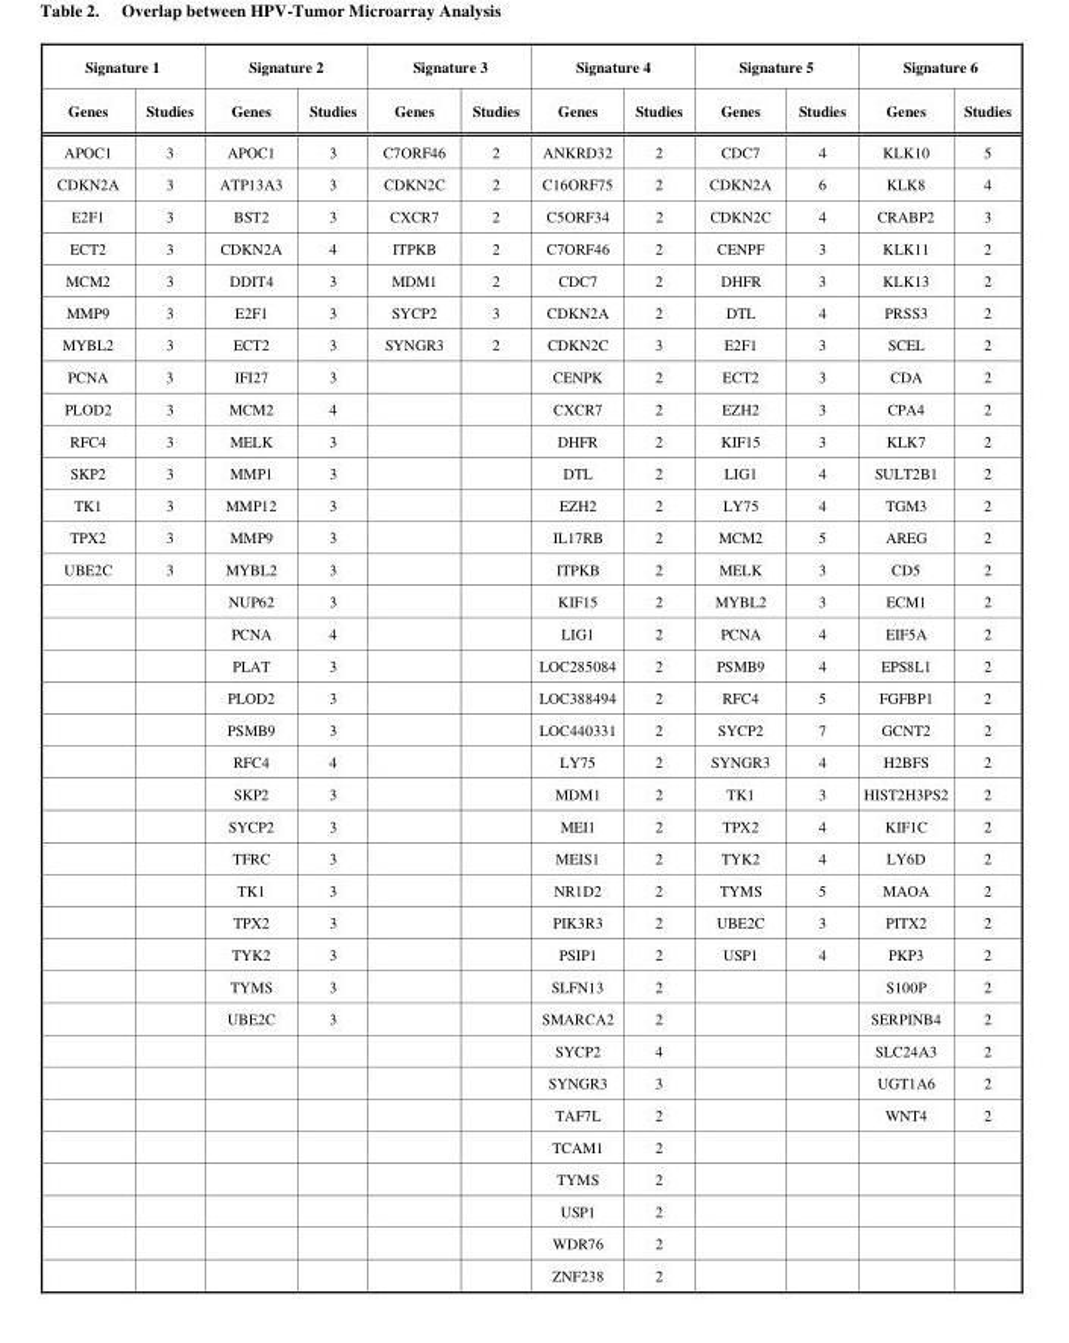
<table><thead><tr><td colspan="2">Signature 1</td><td colspan="2">Signature 2</td><td colspan="2">Signature 3</td><td colspan="2">Signature 4</td><td colspan="2">Signature 5</td><td colspan="2">Signature 6</td></tr><tr><td>Genes</td><td>Studies</td><td>Genes</td><td>Studies</td><td>Genes</td><td>Studies</td><td>Genes</td><td>Studies</td><td>Genes</td><td>Studies</td><td>Genes</td><td>Studies</td></tr></thead><tbody><tr><td>APOC1</td><td>3</td><td>APOC1</td><td>3</td><td>C7ORF46</td><td>2</td><td>ANKRD32</td><td>2</td><td>CDC7</td><td>4</td><td>KLK10</td><td>5</td></tr><tr><td>CDKN2A</td><td>3</td><td>ATP13A3</td><td>3</td><td>CDKN2C</td><td>2</td><td>C16ORF75</td><td>2</td><td>CDKN2A</td><td>6</td><td>KLK8</td><td>4</td></tr><tr><td>E2F1</td><td>3</td><td>BST2</td><td>3</td><td>CXCR7</td><td>2</td><td>C5ORF34</td><td>2</td><td>CDKN2C</td><td>4</td><td>CRABP2</td><td>3</td></tr><tr><td>ECT2</td><td>3</td><td>CDKN2A</td><td>4</td><td>ITPKB</td><td>2</td><td>C7ORF46</td><td>2</td><td>CENPF</td><td>3</td><td>KLK11</td><td>2</td></tr><tr><td>MCM2</td><td>3</td><td>DDIT4</td><td>3</td><td>MDM1</td><td>2</td><td>CDC7</td><td>2</td><td>DHFR</td><td>3</td><td>KLK13</td><td>2</td></tr><tr><td>MMP9</td><td>3</td><td>E2F1</td><td>3</td><td>SYCP2</td><td>3</td><td>CDKN2A</td><td>2</td><td>DTL</td><td>4</td><td>PRSS3</td><td>2</td></tr><tr><td>MYBL2</td><td>3</td><td>ECT2</td><td>3</td><td>SYNGR3</td><td>2</td><td>CDKN2C</td><td>3</td><td>E2F1</td><td>3</td><td>SCEL</td><td>2</td></tr><tr><td>PCNA</td><td>3</td><td>IFI27</td><td>3</td><td></td><td></td><td>CENPK</td><td>2</td><td>ECT2</td><td>3</td><td>CDA</td><td>2</td></tr><tr><td>PLOD2</td><td>3</td><td>MCM2</td><td>4</td><td></td><td></td><td>CXCR7</td><td>2</td><td>EZH2</td><td>3</td><td>CPA4</td><td>2</td></tr><tr><td>RFC4</td><td>3</td><td>MELK</td><td>3</td><td></td><td></td><td>DHFR</td><td>2</td><td>KIF15</td><td>3</td><td>KLK7</td><td>2</td></tr><tr><td>SKP2</td><td>3</td><td>MMP1</td><td>3</td><td></td><td></td><td>DTL</td><td>2</td><td>LIG1</td><td>4</td><td>SULT2B1</td><td>2</td></tr><tr><td>TK1</td><td>3</td><td>MMP12</td><td>3</td><td></td><td></td><td>EZH2</td><td>2</td><td>LY75</td><td>4</td><td>TGM3</td><td>2</td></tr><tr><td>TPX2</td><td>3</td><td>MMP9</td><td>3</td><td></td><td></td><td>IL17RB</td><td>2</td><td>MCM2</td><td>5</td><td>AREG</td><td>2</td></tr><tr><td rowspan="23">UBE2C</td><td>3</td><td>MYBL2</td><td>3</td><td></td><td></td><td>ITPKB</td><td>2</td><td>MELK</td><td>3</td><td>CD5</td><td>2</td></tr><tr><td></td><td>NUP62</td><td>3</td><td></td><td></td><td>KIF15</td><td>2</td><td>MYBL2</td><td>3</td><td>ECM1</td><td>2</td></tr><tr><td></td><td>PCNA</td><td>4</td><td></td><td></td><td>LIG1</td><td>2</td><td>PCNA</td><td>4</td><td>EIF5A</td><td>2</td></tr><tr><td></td><td>PLAT</td><td>3</td><td></td><td></td><td>LOC285084</td><td>2</td><td>PSMB9</td><td>4</td><td>EPS8L1</td><td>2</td></tr><tr><td></td><td>PLOD2</td><td>3</td><td></td><td></td><td>LOC388494</td><td>2</td><td>RFC4</td><td>5</td><td>FGFBP1</td><td>2</td></tr><tr><td></td><td>PSMB9</td><td>3</td><td></td><td></td><td>LOC440331</td><td>2</td><td>SYCP2</td><td>7</td><td>GCNT2</td><td>2</td></tr><tr><td></td><td>RFC4</td><td>4</td><td></td><td></td><td>LY75</td><td>2</td><td>SYNGR3</td><td>4</td><td>H2BFS</td><td>2</td></tr><tr><td></td><td>SKP2</td><td>3</td><td></td><td></td><td>MDM1</td><td>2</td><td>TK1</td><td>3</td><td>HIST2H3PS2</td><td>2</td></tr><tr><td></td><td>SYCP2</td><td>3</td><td></td><td></td><td>MEI1</td><td>2</td><td>TPX2</td><td>4</td><td>KIF1C</td><td>2</td></tr><tr><td></td><td>TFRC</td><td>3</td><td></td><td></td><td>MEIS1</td><td>2</td><td>TYK2</td><td>4</td><td>LY6D</td><td>2</td></tr><tr><td></td><td>TK1</td><td>3</td><td></td><td></td><td>NR1D2</td><td>2</td><td>TYMS</td><td>5</td><td>MAOA</td><td>2</td></tr><tr><td></td><td>TPX2</td><td>3</td><td></td><td></td><td>PIK3R3</td><td>2</td><td>UBE2C</td><td>3</td><td>PITX2</td><td>2</td></tr><tr><td></td><td>TYK2</td><td>3</td><td></td><td></td><td>PSIP1</td><td>2</td><td>USP1</td><td>4</td><td>PKP3</td><td>2</td></tr><tr><td></td><td>TYMS</td><td>3</td><td></td><td></td><td>SLFN13</td><td>2</td><td></td><td></td><td>S100P</td><td>2</td></tr><tr><td></td><td>UBE2C</td><td>3</td><td></td><td></td><td>SMARCA2</td><td>2</td><td></td><td></td><td>SERPINB4</td><td>2</td></tr><tr><td></td><td></td><td></td><td></td><td></td><td>SYCP2</td><td>4</td><td></td><td></td><td>SLC24A3</td><td>2</td></tr><tr><td></td><td></td><td></td><td></td><td></td><td>SYNGR3</td><td>3</td><td></td><td></td><td>UGT1A6</td><td>2</td></tr><tr><td></td><td></td><td></td><td></td><td></td><td>TAF7L</td><td>2</td><td></td><td></td><td>WNT4</td><td>2</td></tr><tr><td></td><td></td><td></td><td></td><td></td><td>TCAM1</td><td>2</td><td></td><td></td><td></td><td></td></tr><tr><td></td><td></td><td></td><td></td><td></td><td>TYMS</td><td>2</td><td></td><td></td><td></td><td></td></tr><tr><td></td><td></td><td></td><td></td><td></td><td>USP1</td><td>2</td><td></td><td></td><td></td><td></td></tr><tr><td></td><td></td><td></td><td></td><td></td><td>WDR76</td><td>2</td><td></td><td></td><td></td><td></td></tr><tr><td></td><td></td><td></td><td></td><td></td><td>ZNF238</td><td>2</td><td></td><td></td><td></td><td></td></tr></tbody></table>